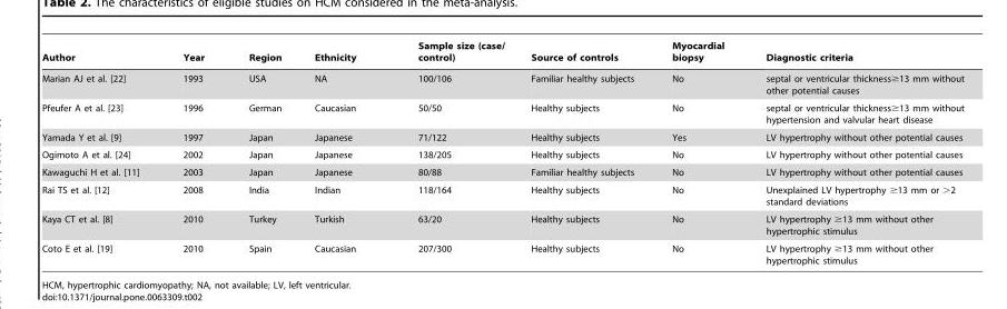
<table><thead><tr><td>Author</td><td>Year</td><td>Region</td><td>Ethnicity</td><td>Sample size (case/ control)</td><td>Source of controls</td><td>Myocardial biopsy</td><td>Diagnostic criteria</td></tr></thead><tbody><tr><td>Marian AJ et al. [22]</td><td>1993</td><td>USA</td><td>NA</td><td>100/106</td><td>Familiar healthy subjects</td><td>No</td><td>septal or ventricular thickness≥13 mm without other potential causes</td></tr><tr><td>Pfeufer A et al. [23]</td><td>1996</td><td>German</td><td>Caucasian</td><td>50/50</td><td>Healthy subjects</td><td>No</td><td>septal or ventricular thickness≥13 mm without hypertension and valvular heart disease</td></tr><tr><td>Yamada Y et al. [9]</td><td>1997</td><td>Japan</td><td>Japanese</td><td>71/122</td><td>Healthy subjects</td><td>Yes</td><td>LV hypertrophy without other potential causes</td></tr><tr><td>Ogimoto A et al. [24]</td><td>2002</td><td>Japan</td><td>Japanese</td><td>138/205</td><td>Healthy subjects</td><td>No</td><td>LV hypertrophy without other potential causes</td></tr><tr><td>Kawaguchi H et al. [11]</td><td>2003</td><td>Japan</td><td>Japanese</td><td>80/88</td><td>Familiar healthy subjects</td><td>No</td><td>LV hypertrophy without other potential causes</td></tr><tr><td>Rai TS et al. [12]</td><td>2008</td><td>India</td><td>Indian</td><td>118/164</td><td>Healthy subjects</td><td>No</td><td>Unexplained LV hypertrophy ≥13 mm or &gt;2 standard deviations</td></tr><tr><td>Kaya CT et al. [8]</td><td>2010</td><td>Turkey</td><td>Turkish</td><td>63/20</td><td>Healthy subjects</td><td>No</td><td>LV hypertrophy ≥13 mm without other hypertrophic stimulus</td></tr><tr><td>Coto E et al. [19]</td><td>2010</td><td>Spain</td><td>Caucasian</td><td>207/300</td><td>Healthy subjects</td><td>No</td><td>LV hypertrophy ≥13 mm without other hypertrophic stimulus</td></tr></tbody></table>